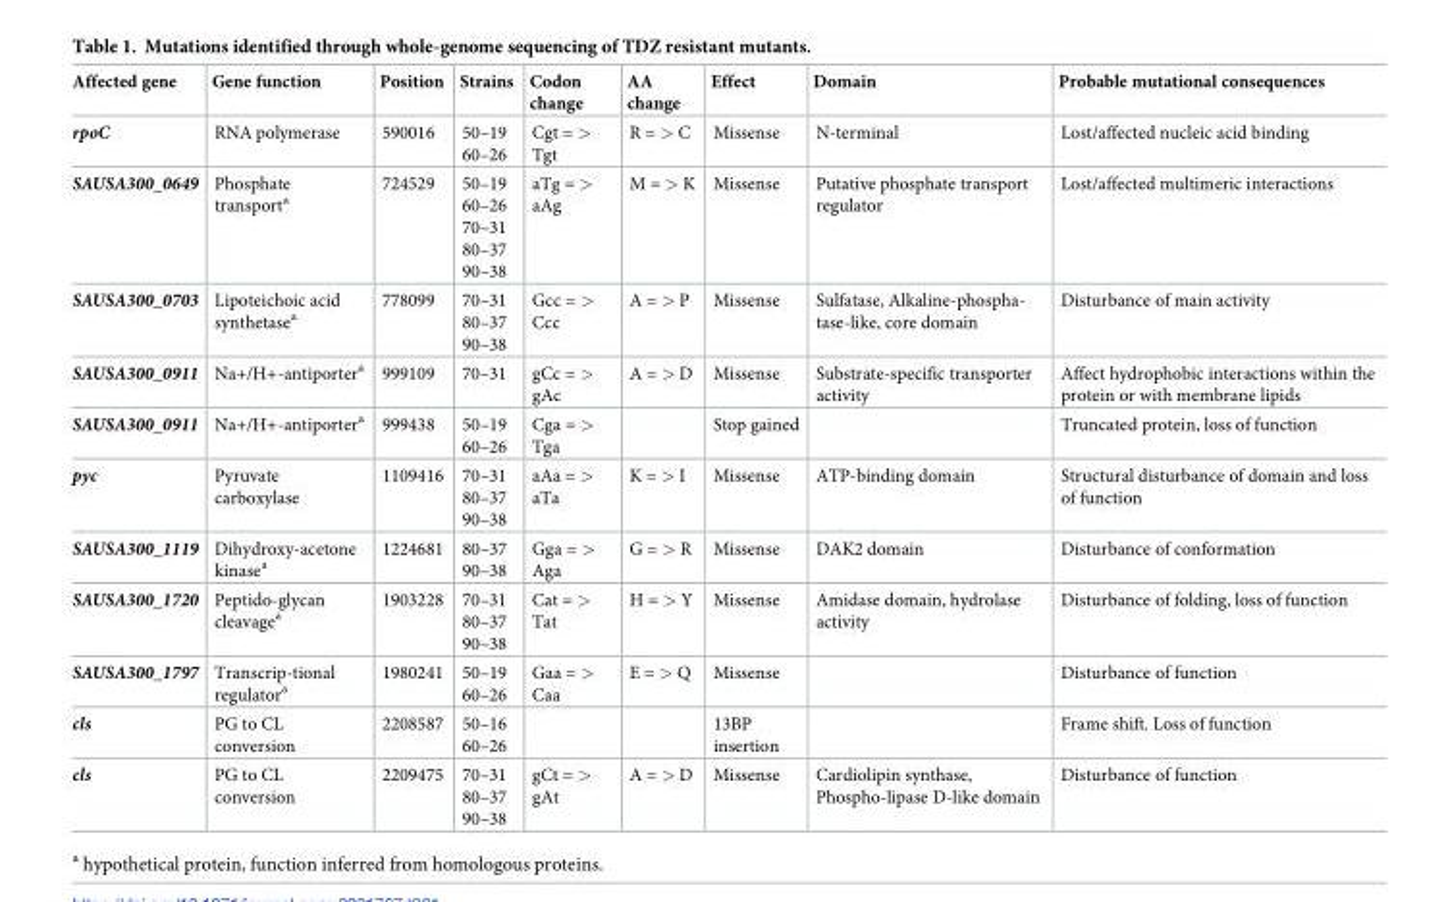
<table><thead><tr><td>Affected gene</td><td>Gene function</td><td>Position</td><td>Strains</td><td>Codon change</td><td>AA change</td><td>Effect</td><td>Domain</td><td>Probable mutational consequences</td></tr></thead><tbody><tr><td>rpoC</td><td>RNA polymerase</td><td>590016</td><td>50–19 60–26</td><td>Cgt = &gt; Tgt</td><td>R = &gt; C</td><td>Missense</td><td>N-terminal</td><td>Lost/affected nucleic acid binding</td></tr><tr><td>SAUSA300_0649</td><td>Phosphate transport<sup>a</sup></td><td>724529</td><td>50–19 60–26 70–31 80–37 90–38</td><td>aTg = &gt; aAg</td><td>M = &gt; K</td><td>Missense</td><td>Putative phosphate transport regulator</td><td>Lost/affected multimeric interactions</td></tr><tr><td>SAUSA300_0703</td><td>Lipoteichoic acid synthetase<sup>a</sup></td><td>778099</td><td>70–31 80–37 90–38</td><td>Gcc = &gt; Ccc</td><td>A = &gt; P</td><td>Missense</td><td>Sulfatase, Alkaline-phospha- tase-like, core domain</td><td>Disturbance of main activity</td></tr><tr><td>SAUSA300_0911</td><td>Na+/H+-antiporter<sup>a</sup></td><td>999109</td><td>70–31</td><td>gCc = &gt; gAc</td><td>A = &gt; D</td><td>Missense</td><td>Substrate-specific transporter activity</td><td>Affect hydrophobic interactions within the protein or with membrane lipids</td></tr><tr><td>SAUSA300_0911</td><td>Na+/H+-antiporter<sup>a</sup></td><td>999438</td><td>50–19 60–26</td><td>Cga = &gt; Tga</td><td></td><td>Stop gained</td><td></td><td>Truncated protein, loss of function</td></tr><tr><td>pyc</td><td>Pyruvate carboxylase</td><td>1109416</td><td>70–31 80–37 90–38</td><td>aAa = &gt; aTa</td><td>K = &gt; I</td><td>Missense</td><td>ATP-binding domain</td><td>Structural disturbance of domain and loss of function</td></tr><tr><td>SAUSA300_1119</td><td>Dihydroxy-acetone kinase<sup>a</sup></td><td>1224681</td><td>80–37 90–38</td><td>Gga = &gt; Aga</td><td>G = &gt; R</td><td>Missense</td><td>DAK2 domain</td><td>Disturbance of conformation</td></tr><tr><td>SAUSA300_1720</td><td>Peptido-glycan cleavage<sup>a</sup></td><td>1903228</td><td>70–31 80–37 90–38</td><td>Cat = &gt; Tat</td><td>H = &gt; Y</td><td>Missense</td><td>Amidase domain, hydrolase activity</td><td>Disturbance of folding, loss of function</td></tr><tr><td>SAUSA300_1797</td><td>Transcrip-tional regulator<sup>a</sup></td><td>1980241</td><td>50–19 60–26</td><td>Gaa = &gt; Caa</td><td>E = &gt; Q</td><td>Missense</td><td></td><td>Disturbance of function</td></tr><tr><td>cls</td><td>PG to CL conversion</td><td>2208587</td><td>50–16 60–26</td><td></td><td></td><td>13BP insertion</td><td></td><td>Frame shift. Loss of function</td></tr><tr><td>cls</td><td>PG to CL conversion</td><td>2209475</td><td>70–31 80–37 90–38</td><td>gCt = &gt; gAt</td><td>A = &gt; D</td><td>Missense</td><td>Cardiolipin synthase, Phospho-lipase D-like domain</td><td>Disturbance of function</td></tr></tbody></table>